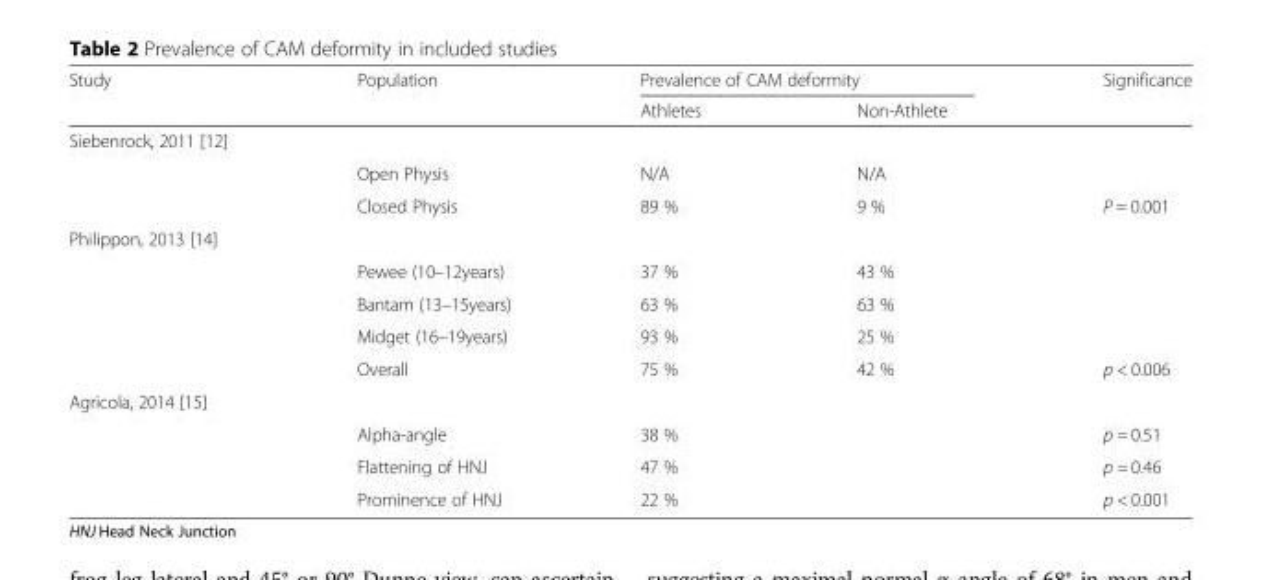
<table><thead><tr><td rowspan="2">Study</td><td rowspan="2">Population</td><td colspan="2">Prevalence of CAM deformity</td><td rowspan="2">Significance</td></tr><tr><td>Athletes</td><td>Non-Athlete</td></tr></thead><tbody><tr><td colspan="5">Siebenrock, 2011 [12]</td></tr><tr><td></td><td>Open Physis</td><td>N/A</td><td>N/A</td><td></td></tr><tr><td></td><td>Closed Physis</td><td>89 %</td><td>9 %</td><td>P = 0.001</td></tr><tr><td colspan="5">Philippon, 2013 [14]</td></tr><tr><td></td><td>Pewee (10–12years)</td><td>37 %</td><td>43 %</td><td></td></tr><tr><td></td><td>Bantam (13–15years)</td><td>63 %</td><td>63 %</td><td></td></tr><tr><td></td><td>Midget (16–19years)</td><td>93 %</td><td>25 %</td><td></td></tr><tr><td></td><td>Overall</td><td>75 %</td><td>42 %</td><td>p &lt; 0.006</td></tr><tr><td colspan="5">Agricola, 2014 [15]</td></tr><tr><td></td><td>Alpha-angle</td><td>38 %</td><td></td><td>p = 0.51</td></tr><tr><td></td><td>Flattening of HNJ</td><td>47 %</td><td></td><td>p = 0.46</td></tr><tr><td></td><td>Prominence of HNJ</td><td>22 %</td><td></td><td>p &lt; 0.001</td></tr></tbody></table>